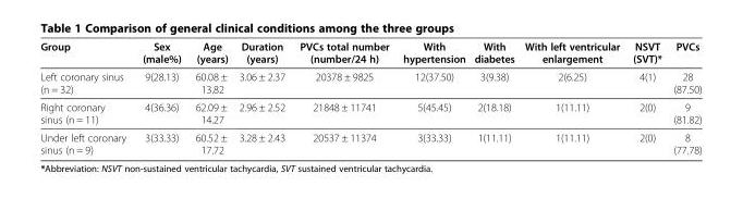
<table><thead><tr><td>Group</td><td>Sex (male%)</td><td>Age (years)</td><td>Duration (years)</td><td>PVCs total number (number/24 h)</td><td>With hypertension</td><td>With diabetes</td><td>With left ventricular enlargement</td><td>NSVT (SVT)*</td><td>PVCs</td></tr></thead><tbody><tr><td>Left coronary sinus (n = 32)</td><td>9(28.13)</td><td>60.08 ± 13.82</td><td>3.06 ± 2.37</td><td>20378 ± 9825</td><td>12(37.50)</td><td>3(9.38)</td><td>2(6.25)</td><td>4(1)</td><td>28 (87.50)</td></tr><tr><td>Right coronary sinus (n = 11)</td><td>4(36.36)</td><td>62.09 ± 14.27</td><td>2.96 ± 2.52</td><td>21848 ± 11741</td><td>5(45.45)</td><td>2(18.18)</td><td>1(11.11)</td><td>2(0)</td><td>9 (81.82)</td></tr><tr><td>Under left coronary sinus (n = 9)</td><td>3(33.33)</td><td>60.52 ± 17.72</td><td>3.28 ± 2.43</td><td>20537 ± 11374</td><td>3(33.33)</td><td>1(11.11)</td><td>1(11.11)</td><td>2(0)</td><td>8 (77.78)</td></tr></tbody></table>